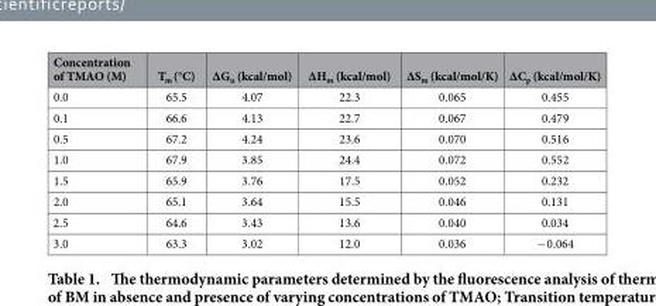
<table><thead><tr><td>Concentration of TMAO (M)</td><td>T<sub>m</sub> (°C)</td><td>ΔG<sub>u</sub> (kcal/mol)</td><td>ΔH<sub>m</sub> (kcal/mol)</td><td>ΔS<sub>m</sub> (kcal/mol/K)</td><td>ΔC<sub>p</sub> (kcal/mol/K)</td></tr></thead><tbody><tr><td>0.0</td><td>65.5</td><td>4.07</td><td>22.3</td><td>0.065</td><td>0.455</td></tr><tr><td>0.1</td><td>66.6</td><td>4.13</td><td>22.7</td><td>0.067</td><td>0.479</td></tr><tr><td>0.5</td><td>67.2</td><td>4.24</td><td>23.6</td><td>0.070</td><td>0.516</td></tr><tr><td>1.0</td><td>67.9</td><td>3.85</td><td>24.4</td><td>0.072</td><td>0.552</td></tr><tr><td>1.5</td><td>65.9</td><td>3.76</td><td>17.5</td><td>0.052</td><td>0.232</td></tr><tr><td>2.0</td><td>65.1</td><td>3.64</td><td>15.5</td><td>0.046</td><td>0.131</td></tr><tr><td>2.5</td><td>64.6</td><td>3.43</td><td>13.6</td><td>0.040</td><td>0.034</td></tr><tr><td>3.0</td><td>63.3</td><td>3.02</td><td>12.0</td><td>0.036</td><td>− 0.064</td></tr></tbody></table>